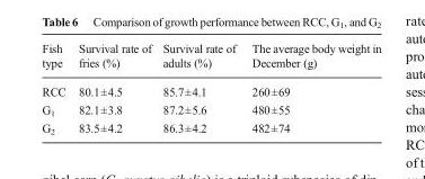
<table><thead><tr><td>Fish type</td><td>Survival rate of fries (%)</td><td>Survival rate of adults (%)</td><td>The average body weight in December (g)</td></tr></thead><tbody><tr><td>RCC</td><td>80.1±4.5</td><td>85.7±4.1</td><td>260±69</td></tr><tr><td>G<sub>1</sub></td><td>82.1±3.8</td><td>87.2±5.6</td><td>480±55</td></tr><tr><td>G<sub>2</sub></td><td>83.5±4.2</td><td>86.3±4.2</td><td>482±74</td></tr></tbody></table>